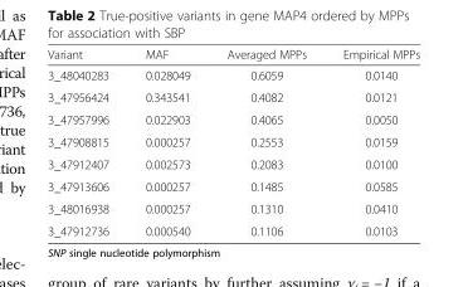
<table><thead><tr><td>Variant</td><td>MAF</td><td>Averaged MPPs</td><td>Empirical MPPs</td></tr></thead><tbody><tr><td>3_48040283</td><td>0.028049</td><td>0.6059</td><td>0.0140</td></tr><tr><td>3_47956424</td><td>0.343541</td><td>0.4082</td><td>0.0121</td></tr><tr><td>3_47957996</td><td>0.022903</td><td>0.4065</td><td>0.0050</td></tr><tr><td>3_47908815</td><td>0.000257</td><td>0.2553</td><td>0.0159</td></tr><tr><td>3_47912407</td><td>0.002573</td><td>0.2083</td><td>0.0100</td></tr><tr><td>3_47913606</td><td>0.000257</td><td>0.1485</td><td>0.0585</td></tr><tr><td>3_48016938</td><td>0.000257</td><td>0.1310</td><td>0.0410</td></tr><tr><td>3_47912736</td><td>0.000540</td><td>0.1106</td><td>0.0103</td></tr></tbody></table>